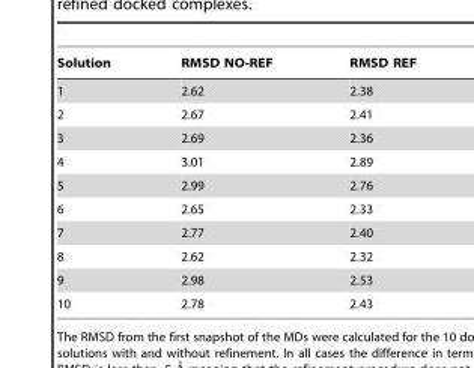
<table><thead><tr><td>Solution</td><td>RMSD NO-REF</td><td>RMSD REF</td></tr></thead><tbody><tr><td>1</td><td>2.62</td><td>2.38</td></tr><tr><td>2</td><td>2.67</td><td>2.41</td></tr><tr><td>3</td><td>2.69</td><td>2.36</td></tr><tr><td>4</td><td>3.01</td><td>2.89</td></tr><tr><td>5</td><td>2.99</td><td>2.76</td></tr><tr><td>6</td><td>2.65</td><td>2.33</td></tr><tr><td>7</td><td>2.77</td><td>2.40</td></tr><tr><td>8</td><td>2.62</td><td>2.32</td></tr><tr><td>9</td><td>2.98</td><td>2.53</td></tr><tr><td>10</td><td>2.78</td><td>2.43</td></tr></tbody></table>